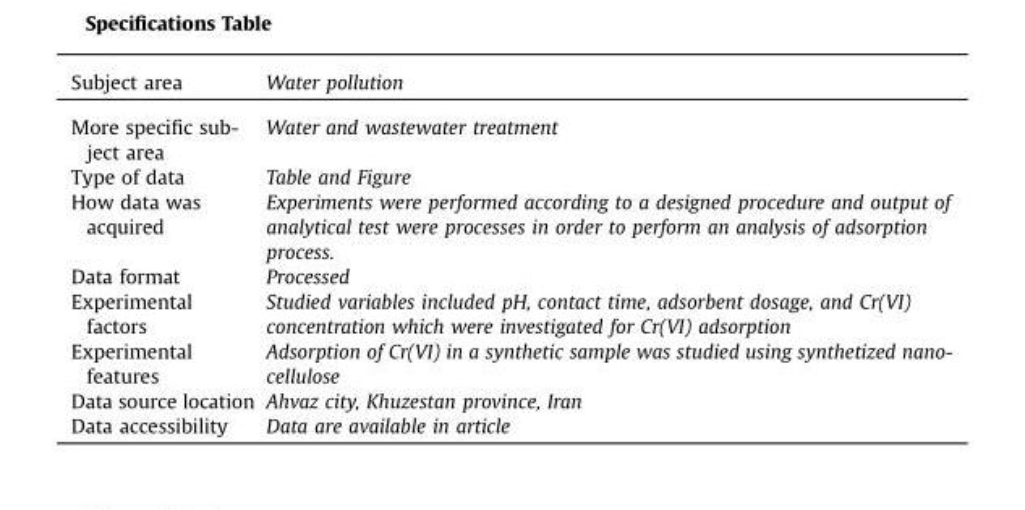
<table><thead><tr><td>Subject area</td><td>Water pollution</td></tr></thead><tbody><tr><td>More specific sub- ject area</td><td>Water and wastewater treatment</td></tr><tr><td>Type of data</td><td>Table and Figure</td></tr><tr><td>How data was acquired</td><td>Experiments were performed according to a designed procedure and output of analytical test were processes in order to perform an analysis of adsorption process.</td></tr><tr><td>Data format</td><td>Processed</td></tr><tr><td>Experimental factors</td><td>Studied variables included pH, contact time, adsorbent dosage, and Cr(VI) concentration which were investigated for Cr(VI) adsorption</td></tr><tr><td>Experimental features</td><td>Adsorption of Cr(VI) in a synthetic sample was studied using synthetized nano- cellulose</td></tr><tr><td>Data source location</td><td>Ahvaz city, Khuzestan province, Iran</td></tr><tr><td>Data accessibility</td><td>Data are available in article</td></tr></tbody></table>